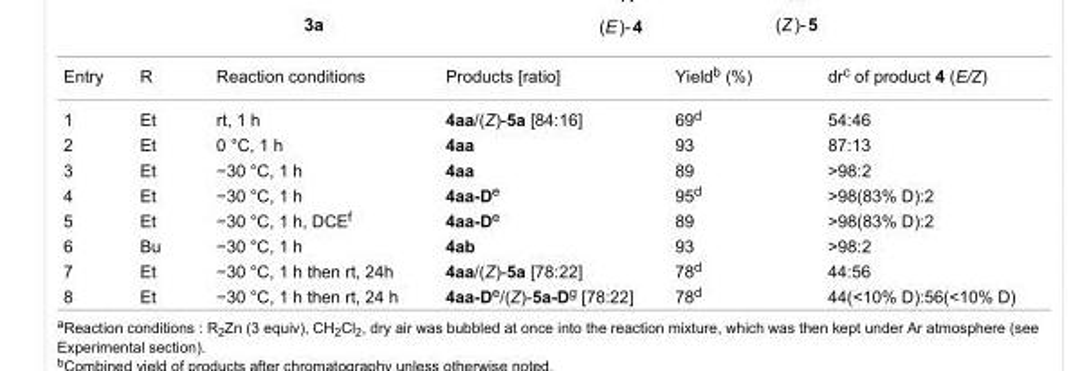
<table><tbody><tr><td>Entry</td><td>R</td><td>Reaction conditions</td><td>Products [ratio]</td><td>Yield<sup>b</sup> (%)</td><td>dr<sup>c</sup> of product 4 (E/Z)</td></tr><tr><td>1</td><td>Et</td><td>rt, 1 h</td><td>4aa/(Z)-5a [84:16]</td><td>69<sup>d</sup></td><td>54:46</td></tr><tr><td>2</td><td>Et</td><td>0 °C, 1 h</td><td>4aa</td><td>93</td><td>87:13</td></tr><tr><td>3</td><td>Et</td><td>−30 °C, 1 h</td><td>4aa</td><td>89</td><td>&gt;98:2</td></tr><tr><td>4</td><td>Et</td><td>−30 °C, 1 h</td><td>4aa-D<sup>e</sup></td><td>95<sup>d</sup></td><td>&gt;98(83% D):2</td></tr><tr><td>5</td><td>Et</td><td>−30 °C, 1 h, DCE<sup>f</sup></td><td>4aa-D<sup>e</sup></td><td>89</td><td>&gt;98(83% D):2</td></tr><tr><td>6</td><td>Bu</td><td>−30 °C, 1 h</td><td>4ab</td><td>93</td><td>&gt;98:2</td></tr><tr><td>7</td><td>Et</td><td>−30 °C, 1 h then rt, 24h</td><td>4aa/(Z)-5a [78:22]</td><td>78<sup>d</sup></td><td>44:56</td></tr><tr><td>8</td><td>Et</td><td>−30 °C, 1 h then rt, 24 h</td><td>4aa-D<sup>e</sup>/(Z)-5a-D<sup>g</sup> [78:22]</td><td>78<sup>d</sup></td><td>44(&lt;10% D):56(&lt;10% D)</td></tr></tbody></table>